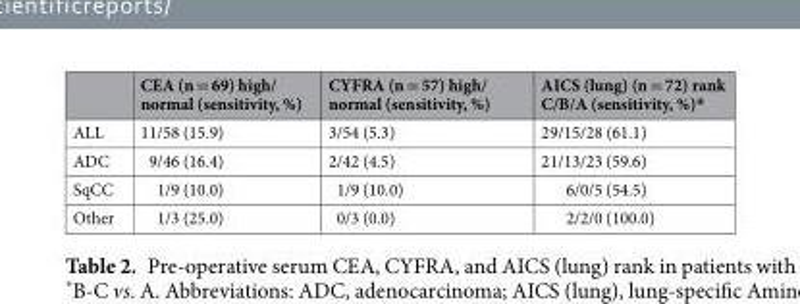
<table><thead><tr><td></td><td>CEA (n = 69) high/ normal (sensitivity, %)</td><td>CYFRA (n = 57) high/ normal (sensitivity, %)</td><td>AICS (lung) (n = 72) rank C/B/A (sensitivity, %)*</td></tr></thead><tbody><tr><td>ALL</td><td>11/58 (15.9)</td><td>3/54 (5.3)</td><td>29/15/28 (61.1)</td></tr><tr><td>ADC</td><td>9/46 (16.4)</td><td>2/42 (4.5)</td><td>21/13/23 (59.6)</td></tr><tr><td>SqCC</td><td>1/9 (10.0)</td><td>1/9 (10.0)</td><td>6/0/5 (54.5)</td></tr><tr><td>Other</td><td>1/3 (25.0)</td><td>0/3 (0.0)</td><td>2/2/0 (100.0)</td></tr></tbody></table>